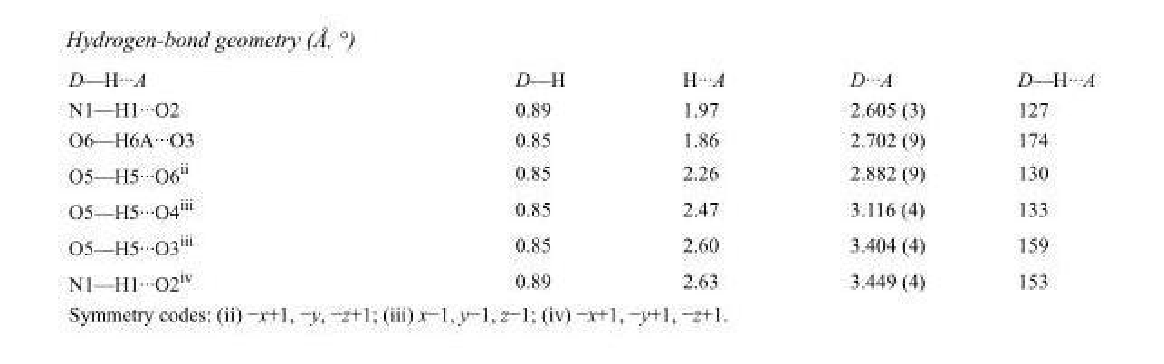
<table><tbody><tr><td>D—H···A</td><td>D—H</td><td>H···A</td><td>D···A</td><td>D—H···A</td></tr><tr><td>N1—H1···O2</td><td>0.89</td><td>1.97</td><td>2.605 (3)</td><td>127</td></tr><tr><td>O6—H6A···O3</td><td>0.85</td><td>1.86</td><td>2.702 (9)</td><td>174</td></tr><tr><td>O5—H5···O6<sup>ii</sup></td><td>0.85</td><td>2.26</td><td>2.882 (9)</td><td>130</td></tr><tr><td>O5—H5···O4<sup>iii</sup></td><td>0.85</td><td>2.47</td><td>3.116 (4)</td><td>133</td></tr><tr><td>O5—H5···O3<sup>iii</sup></td><td>0.85</td><td>2.60</td><td>3.404 (4)</td><td>159</td></tr><tr><td>N1—H1···O2<sup>iv</sup></td><td>0.89</td><td>2.63</td><td>3.449 (4)</td><td>153</td></tr></tbody></table>